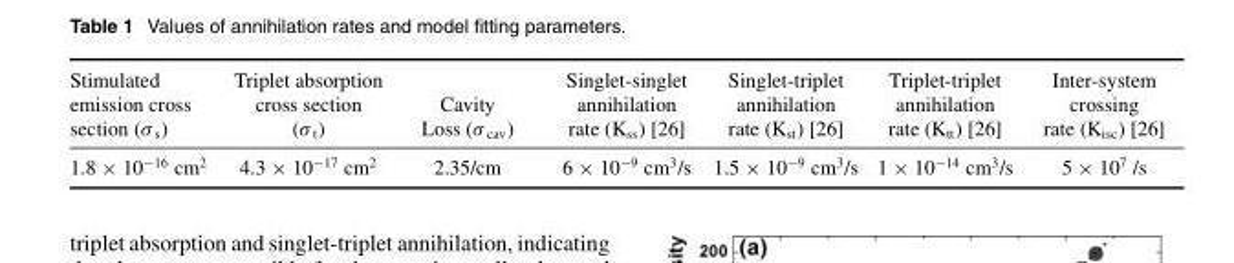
<table><thead><tr><td>Stimulated emission cross section (σ <sub>s</sub>)</td><td>Triplet absorption cross section (σ <sub>t</sub>)</td><td>Cavity Loss (σ <sub>cav</sub>)</td><td>Singlet-singlet annihilation rate (Kss) [26]</td><td>Singlet-triplet annihilation rate (Kst) [26]</td><td>Triplet-triplet annihilation rate (Ktt) [26]</td><td>Inter-system crossing rate (Kisc) [26]</td></tr></thead><tbody><tr><td>1.8 × 10<sup>−16</sup> cm<sup>2</sup></td><td>4.3 × 10<sup>−17</sup> cm<sup>2</sup></td><td>2.35/cm</td><td>6 × 10<sup>−9</sup> cm<sup>3</sup>/s</td><td>1.5 × 10<sup>−9</sup> cm<sup>3</sup>/s</td><td>1 × 10<sup>−14</sup> cm<sup>3</sup>/s</td><td>5 × 10<sup>7</sup> /s</td></tr></tbody></table>